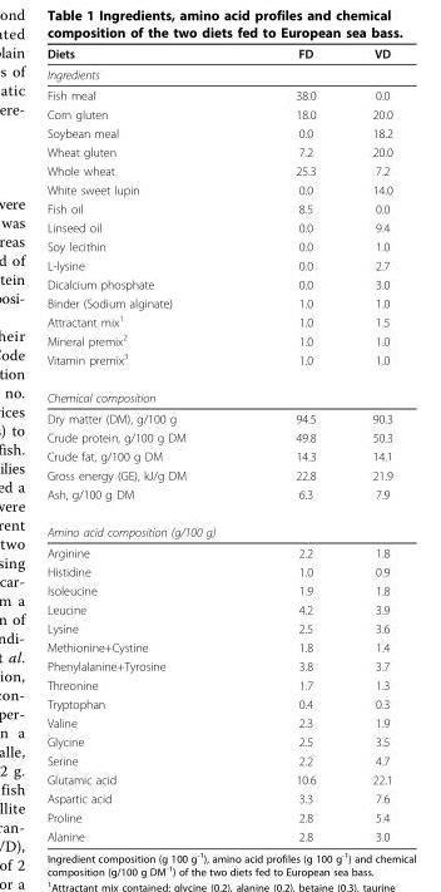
<table><thead><tr><td>Diets</td><td>FD</td><td>VD</td></tr></thead><tbody><tr><td colspan="3">Ingredients</td></tr><tr><td>Fish meal</td><td>38.0</td><td>0.0</td></tr><tr><td>Corn gluten</td><td>18.0</td><td>20.0</td></tr><tr><td>Soybean meal</td><td>0.0</td><td>18.2</td></tr><tr><td>Wheat gluten</td><td>7.2</td><td>20.0</td></tr><tr><td>Whole wheat</td><td>25.3</td><td>7.2</td></tr><tr><td>White sweet lupin</td><td>0.0</td><td>14.0</td></tr><tr><td>Fish oil</td><td>8.5</td><td>0.0</td></tr><tr><td>Linseed oil</td><td>0.0</td><td>9.4</td></tr><tr><td>Soy lecithin</td><td>0.0</td><td>1.0</td></tr><tr><td>L-lysine</td><td>0.0</td><td>2.7</td></tr><tr><td>Dicalcium phosphate</td><td>0.0</td><td>3.0</td></tr><tr><td>Binder (Sodium alginate)</td><td>1.0</td><td>1.0</td></tr><tr><td>Attractant mix<sup>1</sup></td><td>1.0</td><td>1.5</td></tr><tr><td>Mineral premix<sup>2</sup></td><td>1.0</td><td>1.0</td></tr><tr><td>Vitamin premix<sup>3</sup></td><td>1.0</td><td>1.0</td></tr><tr><td colspan="3">Chemical composition</td></tr><tr><td>Dry matter (DM), g/100 g</td><td>94.5</td><td>90.3</td></tr><tr><td>Crude protein, g/100 g DM</td><td>49.8</td><td>50.3</td></tr><tr><td>Crude fat, g/100 g DM</td><td>14.3</td><td>14.1</td></tr><tr><td>Gross energy (GE), kJ/g DM</td><td>22.8</td><td>21.9</td></tr><tr><td>Ash, g/100 g DM</td><td>6.3</td><td>7.9</td></tr><tr><td colspan="3">Amino acid composition (g/100 g)</td></tr><tr><td>Arginine</td><td>2.2</td><td>1.8</td></tr><tr><td>Histidine</td><td>1.0</td><td>0.9</td></tr><tr><td>Isoleucine</td><td>1.9</td><td>1.8</td></tr><tr><td>Leucine</td><td>4.2</td><td>3.9</td></tr><tr><td>Lysine</td><td>2.5</td><td>3.6</td></tr><tr><td>Methionine+Cystine</td><td>1.8</td><td>1.4</td></tr><tr><td>Phenylalanine+Tyrosine</td><td>3.8</td><td>3.7</td></tr><tr><td>Threonine</td><td>1.7</td><td>1.3</td></tr><tr><td>Tryptophan</td><td>0.4</td><td>0.3</td></tr><tr><td>Valine</td><td>2.3</td><td>1.9</td></tr><tr><td>Glycine</td><td>2.5</td><td>3.5</td></tr><tr><td>Serine</td><td>2.2</td><td>4.7</td></tr><tr><td>Glutamic acid</td><td>10.6</td><td>22.1</td></tr><tr><td>Aspartic acid</td><td>3.3</td><td>7.6</td></tr><tr><td>Proline</td><td>2.8</td><td>5.4</td></tr><tr><td>Alanine</td><td>2.8</td><td>3.0</td></tr></tbody></table>